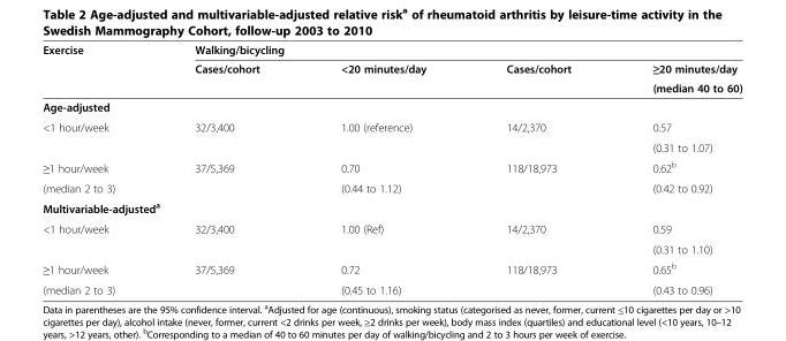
<table><thead><tr><td rowspan="3">Exercise</td><td colspan="4">Walking/bicycling</td></tr><tr><td rowspan="2">Cases/cohort</td><td rowspan="2">&lt;20 minutes/day</td><td rowspan="2">Cases/cohort</td><td rowspan="2">≥20 minutes/day (median 40 to 60)</td></tr><tr></tr></thead><tbody><tr><td colspan="5">Age-adjusted</td></tr><tr><td rowspan="2">&lt;1 hour/week</td><td rowspan="2">32/3,400</td><td rowspan="2">1.00 (reference)</td><td rowspan="2">14/2,370</td><td>0.57</td></tr><tr><td>(0.31 to 1.07)</td></tr><tr><td>≥1 hour/week</td><td rowspan="2">37/5,369</td><td>0.70</td><td rowspan="2">118/18,973</td><td>0.62<sup>b</sup></td></tr><tr><td>(median 2 to 3)</td><td>(0.44 to 1.12)</td><td>(0.42 to 0.92)</td></tr><tr><td colspan="5">Multivariable-adjusted<sup>a</sup></td></tr><tr><td rowspan="2">&lt;1 hour/week</td><td rowspan="2">32/3,400</td><td rowspan="2">1.00 (Ref)</td><td rowspan="2">14/2,370</td><td>0.59</td></tr><tr><td>(0.31 to 1.10)</td></tr><tr><td>≥1 hour/week</td><td rowspan="2">37/5,369</td><td>0.72</td><td rowspan="2">118/18,973</td><td>0.65<sup>b</sup></td></tr><tr><td>(median 2 to 3)</td><td>(0.45 to 1.16)</td><td>(0.43 to 0.96)</td></tr></tbody></table>